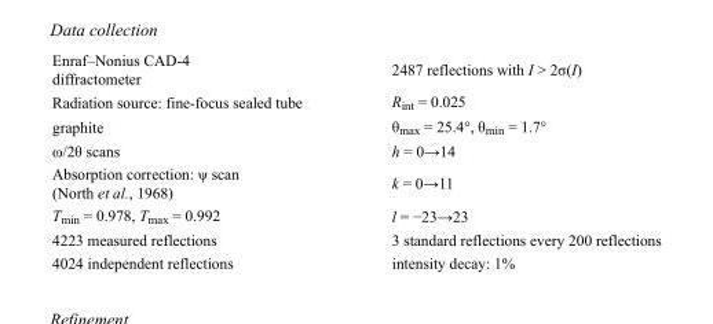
<table><tbody><tr><td>Enraf–Nonius CAD-4 diffractometer</td><td>2487 reflections with I &gt; 2σ(I)</td></tr><tr><td>Radiation source: fine-focus sealed tube</td><td>R<sub>int</sub> = 0.025</td></tr><tr><td>graphite</td><td>θ<sub>max</sub> = 25.4°, θ<sub>min</sub> = 1.7°</td></tr><tr><td>ω/2θ scans</td><td>h = 0→14</td></tr><tr><td>Absorption correction: ψ scan (North et al., 1968)</td><td>k = 0→11</td></tr><tr><td>T<sub>min</sub> = 0.978, T<sub>max</sub> = 0.992</td><td>l = −23→23</td></tr><tr><td>4223 measured reflections</td><td>3 standard reflections every 200 reflections</td></tr><tr><td>4024 independent reflections</td><td>intensity decay: 1%</td></tr></tbody></table>